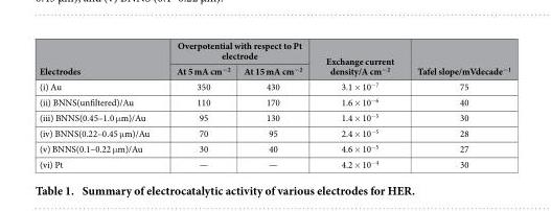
<table><thead><tr><td rowspan="2">Electrodes</td><td colspan="2">Overpotential with respect to Pt electrode</td><td rowspan="2">Exchange current density/A cm<sup>−2</sup></td><td rowspan="2">Tafel slope/mVdecade<sup>−1</sup></td></tr><tr><td>At 5 mA cm<sup>−2</sup></td><td>At 15 mA cm<sup>−2</sup></td></tr></thead><tbody><tr><td>(i) Au</td><td>350</td><td>430</td><td>3.1 × 10<sup>−7</sup></td><td>75</td></tr><tr><td>(ii) BNNS(unfiltered)/Au</td><td>110</td><td>170</td><td>1.6 × 10<sup>−6</sup></td><td>40</td></tr><tr><td>(iii) BNNS(0.45–1.0 μ m)/Au</td><td>95</td><td>130</td><td>1.4 × 10<sup>−5</sup></td><td>30</td></tr><tr><td>(iv) BNNS(0.22–0.45 μ m)/Au</td><td>70</td><td>95</td><td>2.4 × 10<sup>−5</sup></td><td>28</td></tr><tr><td>(v) BNNS(0.1–0.22 μ m)/Au</td><td>30</td><td>40</td><td>4.6 × 10<sup>−5</sup></td><td>27</td></tr><tr><td>(vi) Pt</td><td>—</td><td>—</td><td>4.2 × 10<sup>−4</sup></td><td>30</td></tr></tbody></table>